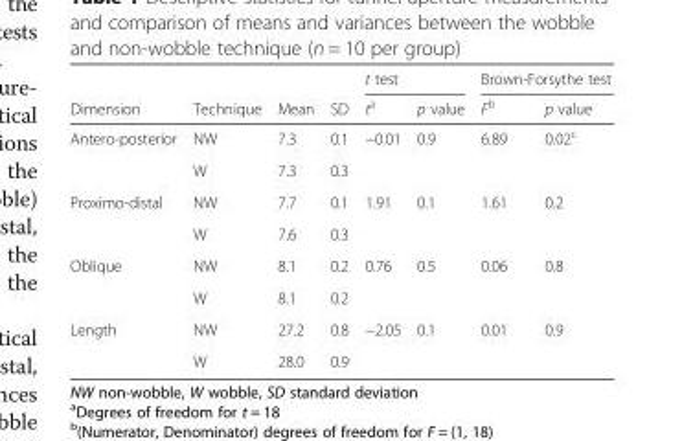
<table><thead><tr><td rowspan="2">Dimension</td><td rowspan="2">Technique</td><td rowspan="2">Mean</td><td rowspan="2">SD</td><td colspan="2">t test</td><td colspan="2">Brown-Forsythe test</td></tr><tr><td>t<sup>a</sup></td><td>p value</td><td>F<sup>b</sup></td><td>p value</td></tr></thead><tbody><tr><td rowspan="2">Antero-posterior</td><td>NW</td><td>7.3</td><td>0.1</td><td>−0.01</td><td>0.9</td><td>6.89</td><td>0.02<sup>c</sup></td></tr><tr><td>W</td><td>7.3</td><td>0.3</td><td></td><td></td><td></td><td></td></tr><tr><td rowspan="2">Proximo-distal</td><td>NW</td><td>7.7</td><td>0.1</td><td>1.91</td><td>0.1</td><td>1.61</td><td>0.2</td></tr><tr><td>W</td><td>7.6</td><td>0.3</td><td></td><td></td><td></td><td></td></tr><tr><td rowspan="2">Oblique</td><td>NW</td><td>8.1</td><td>0.2</td><td>0.76</td><td>0.5</td><td>0.06</td><td>0.8</td></tr><tr><td>W</td><td>8.1</td><td>0.2</td><td></td><td></td><td></td><td></td></tr><tr><td rowspan="2">Length</td><td>NW</td><td>27.2</td><td>0.8</td><td>−2.05</td><td>0.1</td><td>0.01</td><td>0.9</td></tr><tr><td>W</td><td>28.0</td><td>0.9</td><td></td><td></td><td></td><td></td></tr></tbody></table>